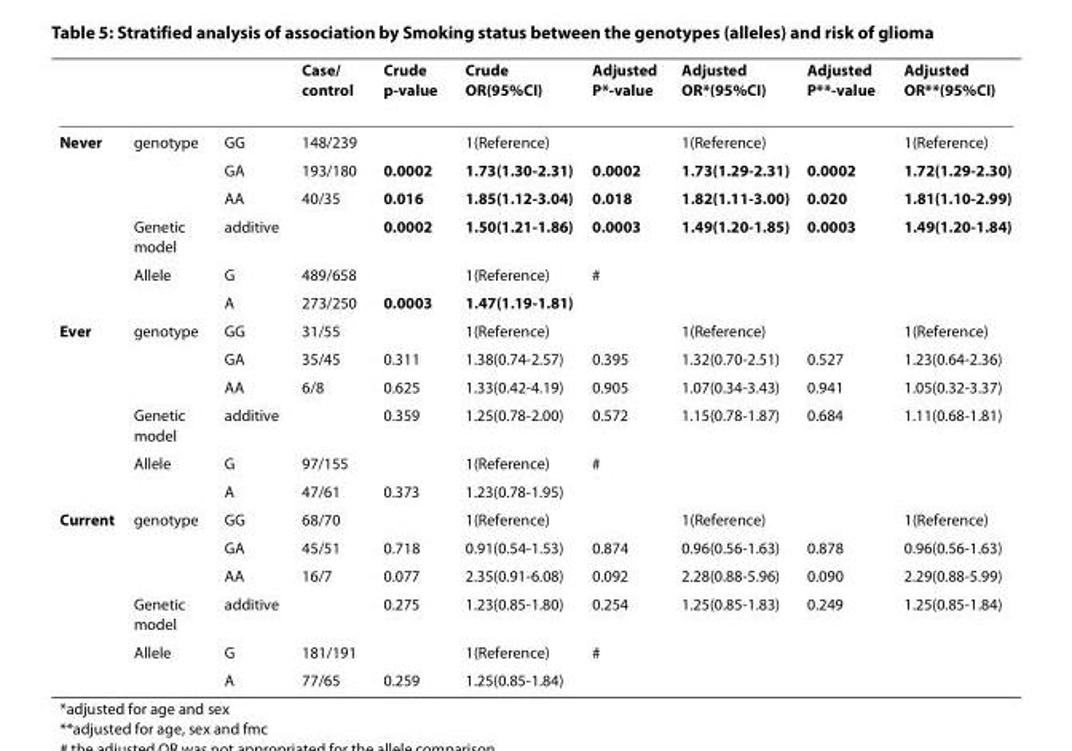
<table><thead><tr><td></td><td></td><td></td><td>Case/ control</td><td>Crude p-value</td><td>Crude OR(95%CI)</td><td>Adjusted P*-value</td><td>Adjusted OR*(95%CI)</td><td>Adjusted P**-value</td><td>Adjusted OR**(95%CI)</td></tr></thead><tbody><tr><td rowspan="6">Never</td><td>genotype</td><td>GG</td><td>148/239</td><td></td><td>1(Reference)</td><td></td><td>1(Reference)</td><td></td><td>1(Reference)</td></tr><tr><td></td><td>GA</td><td>193/180</td><td>0.0002</td><td>1.73(1.30-2.31)</td><td>0.0002</td><td>1.73(1.29-2.31)</td><td>0.0002</td><td>1.72(1.29-2.30)</td></tr><tr><td></td><td>AA</td><td>40/35</td><td>0.016</td><td>1.85(1.12-3.04)</td><td>0.018</td><td>1.82(1.11-3.00)</td><td>0.020</td><td>1.81(1.10-2.99)</td></tr><tr><td>Genetic model</td><td>additive</td><td></td><td>0.0002</td><td>1.50(1.21-1.86)</td><td>0.0003</td><td>1.49(1.20-1.85)</td><td>0.0003</td><td>1.49(1.20-1.84)</td></tr><tr><td>Allele</td><td>G</td><td>489/658</td><td></td><td>1(Reference)</td><td colspan="4">#</td></tr><tr><td></td><td>A</td><td>273/250</td><td>0.0003</td><td>1.47(1.19-1.81)</td><td></td><td></td><td></td><td></td></tr><tr><td rowspan="6">Ever</td><td>genotype</td><td>GG</td><td>31/55</td><td></td><td>1(Reference)</td><td></td><td>1(Reference)</td><td></td><td>1(Reference)</td></tr><tr><td></td><td>GA</td><td>35/45</td><td>0.311</td><td>1.38(0.74-2.57)</td><td>0.395</td><td>1.32(0.70-2.51)</td><td>0.527</td><td>1.23(0.64-2.36)</td></tr><tr><td></td><td>AA</td><td>6/8</td><td>0.625</td><td>1.33(0.42-4.19)</td><td>0.905</td><td>1.07(0.34-3.43)</td><td>0.941</td><td>1.05(0.32-3.37)</td></tr><tr><td>Genetic model</td><td>additive</td><td></td><td>0.359</td><td>1.25(0.78-2.00)</td><td>0.572</td><td>1.15(0.78-1.87)</td><td>0.684</td><td>1.11(0.68-1.81)</td></tr><tr><td>Allele</td><td>G</td><td>97/155</td><td></td><td>1(Reference)</td><td colspan="4">#</td></tr><tr><td></td><td>A</td><td>47/61</td><td>0.373</td><td>1.23(0.78-1.95)</td><td></td><td></td><td></td><td></td></tr><tr><td rowspan="6">Current</td><td>genotype</td><td>GG</td><td>68/70</td><td></td><td>1(Reference)</td><td></td><td>1(Reference)</td><td></td><td>1(Reference)</td></tr><tr><td></td><td>GA</td><td>45/51</td><td>0.718</td><td>0.91(0.54-1.53)</td><td>0.874</td><td>0.96(0.56-1.63)</td><td>0.878</td><td>0.96(0.56-1.63)</td></tr><tr><td></td><td>AA</td><td>16/7</td><td>0.077</td><td>2.35(0.91-6.08)</td><td>0.092</td><td>2.28(0.88-5.96)</td><td>0.090</td><td>2.29(0.88-5.99)</td></tr><tr><td>Genetic model</td><td>additive</td><td></td><td>0.275</td><td>1.23(0.85-1.80)</td><td>0.254</td><td>1.25(0.85-1.83)</td><td>0.249</td><td>1.25(0.85-1.84)</td></tr><tr><td>Allele</td><td>G</td><td>181/191</td><td></td><td>1(Reference)</td><td colspan="4">#</td></tr><tr><td></td><td>A</td><td>77/65</td><td>0.259</td><td>1.25(0.85-1.84)</td><td></td><td></td><td></td><td></td></tr></tbody></table>